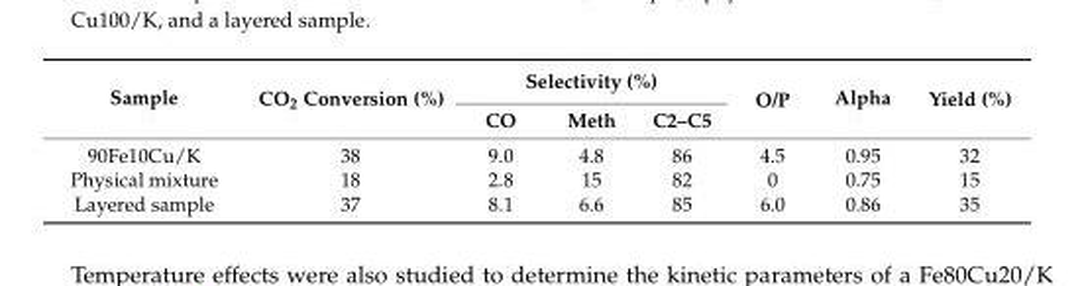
<table><thead><tr><td rowspan="2">Sample</td><td rowspan="2">CO<sub>2</sub> Conversion (%)</td><td colspan="3">Selectivity (%)</td><td rowspan="2">O/P</td><td rowspan="2">Alpha</td><td rowspan="2">Yield (%)</td></tr><tr><td>CO</td><td>Meth</td><td>C2–C5</td></tr></thead><tbody><tr><td>90Fe10Cu/K</td><td>38</td><td>9.0</td><td>4.8</td><td>86</td><td>4.5</td><td>0.95</td><td>32</td></tr><tr><td>Physical mixture</td><td>18</td><td>2.8</td><td>15</td><td>82</td><td>0</td><td>0.75</td><td>15</td></tr><tr><td>Layered sample</td><td>37</td><td>8.1</td><td>6.6</td><td>85</td><td>6.0</td><td>0.86</td><td>35</td></tr></tbody></table>